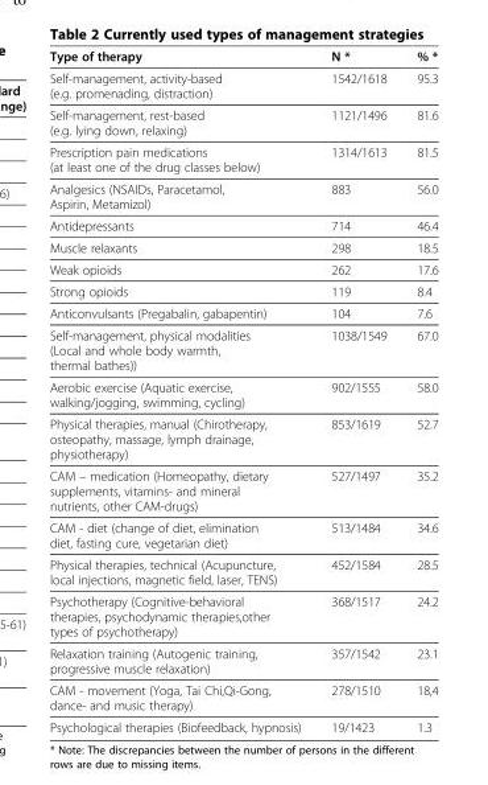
<table><thead><tr><td>Type of therapy</td><td>N *</td><td>% *</td></tr></thead><tbody><tr><td>Self-management, activity-based (e.g. promenading, distraction)</td><td>1542/1618</td><td>95.3</td></tr><tr><td>Self-management, rest-based (e.g. lying down, relaxing)</td><td>1121/1496</td><td>81.6</td></tr><tr><td>Prescription pain medications (at least one of the drug classes below)</td><td>1314/1613</td><td>81.5</td></tr><tr><td>Analgesics (NSAIDs, Paracetamol, Aspirin, Metamizol)</td><td>883</td><td>56.0</td></tr><tr><td>Antidepressants</td><td>714</td><td>46.4</td></tr><tr><td>Muscle relaxants</td><td>298</td><td>18.5</td></tr><tr><td>Weak opioids</td><td>262</td><td>17.6</td></tr><tr><td>Strong opioids</td><td>119</td><td>8.4</td></tr><tr><td>Anticonvulsants (Pregabalin, gabapentin)</td><td>104</td><td>7.6</td></tr><tr><td>Self-management, physical modalities (Local and whole body warmth, thermal bathes))</td><td>1038/1549</td><td>67.0</td></tr><tr><td>Aerobic exercise (Aquatic exercise, walking/jogging, swimming, cycling)</td><td>902/1555</td><td>58.0</td></tr><tr><td>Physical therapies, manual (Chirotherapy, osteopathy, massage, lymph drainage, physiotherapy)</td><td>853/1619</td><td>52.7</td></tr><tr><td>CAM – medication (Homeopathy, dietary supplements, vitamins- and mineral nutrients, other CAM-drugs)</td><td>527/1497</td><td>35.2</td></tr><tr><td>CAM - diet (change of diet, elimination diet, fasting cure, vegetarian diet)</td><td>513/1484</td><td>34.6</td></tr><tr><td>Physical therapies, technical (Acupuncture, local injections, magnetic field, laser, TENS)</td><td>452/1584</td><td>28.5</td></tr><tr><td>Psychotherapy (Cognitive-behavioral therapies, psychodynamic therapies,other types of psychotherapy)</td><td>368/1517</td><td>24.2</td></tr><tr><td>Relaxation training (Autogenic training, progressive muscle relaxation)</td><td>357/1542</td><td>23.1</td></tr><tr><td>CAM - movement (Yoga, Tai Chi,Qi-Gong, dance- and music therapy)</td><td>278/1510</td><td>18,4</td></tr><tr><td>Psychological therapies (Biofeedback, hypnosis)</td><td>19/1423</td><td>1.3</td></tr></tbody></table>